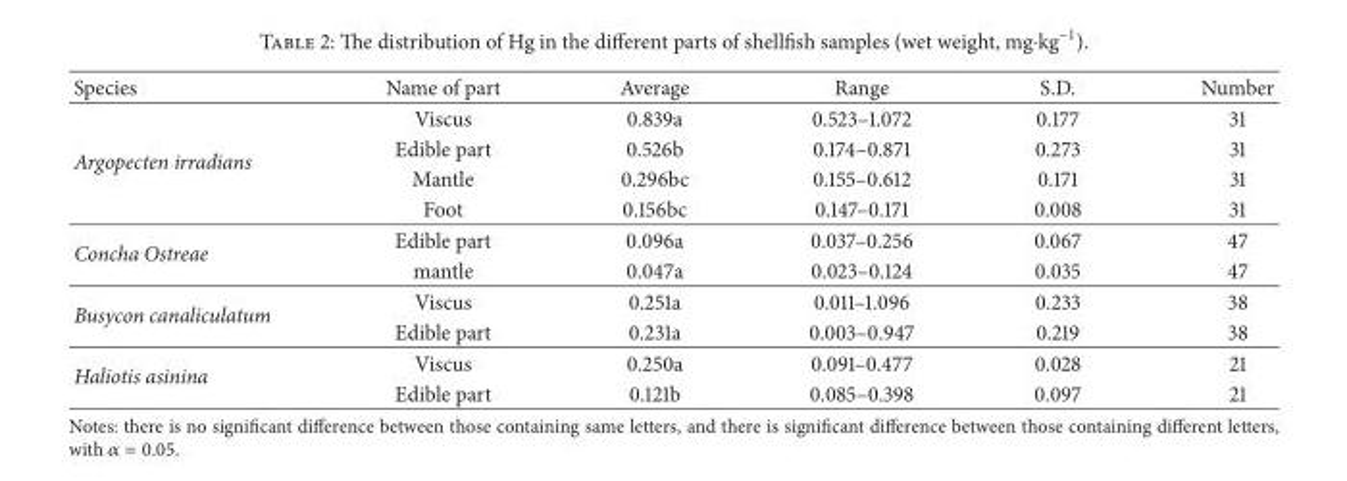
<table><thead><tr><td>Species</td><td>Name of part</td><td>Average</td><td>Range</td><td>S.D.</td><td>Number</td></tr></thead><tbody><tr><td rowspan="4">Argopecten irradians</td><td>Viscus</td><td>0.839a</td><td>0.523–1.072</td><td>0.177</td><td>31</td></tr><tr><td>Edible part</td><td>0.526b</td><td>0.174–0.871</td><td>0.273</td><td>31</td></tr><tr><td>Mantle</td><td>0.296bc</td><td>0.155–0.612</td><td>0.171</td><td>31</td></tr><tr><td>Foot</td><td>0.156bc</td><td>0.147–0.171</td><td>0.008</td><td>31</td></tr><tr><td rowspan="2">Concha Ostreae</td><td>Edible part</td><td>0.096a</td><td>0.037–0.256</td><td>0.067</td><td>47</td></tr><tr><td>mantle</td><td>0.047a</td><td>0.023–0.124</td><td>0.035</td><td>47</td></tr><tr><td rowspan="2">Busycon canaliculatum</td><td>Viscus</td><td>0.251a</td><td>0.011–1.096</td><td>0.233</td><td>38</td></tr><tr><td>Edible part</td><td>0.231a</td><td>0.003–0.947</td><td>0.219</td><td>38</td></tr><tr><td rowspan="2">Haliotis asinina</td><td>Viscus</td><td>0.250a</td><td>0.091–0.477</td><td>0.028</td><td>21</td></tr><tr><td>Edible part</td><td>0.121b</td><td>0.085–0.398</td><td>0.097</td><td>21</td></tr></tbody></table>